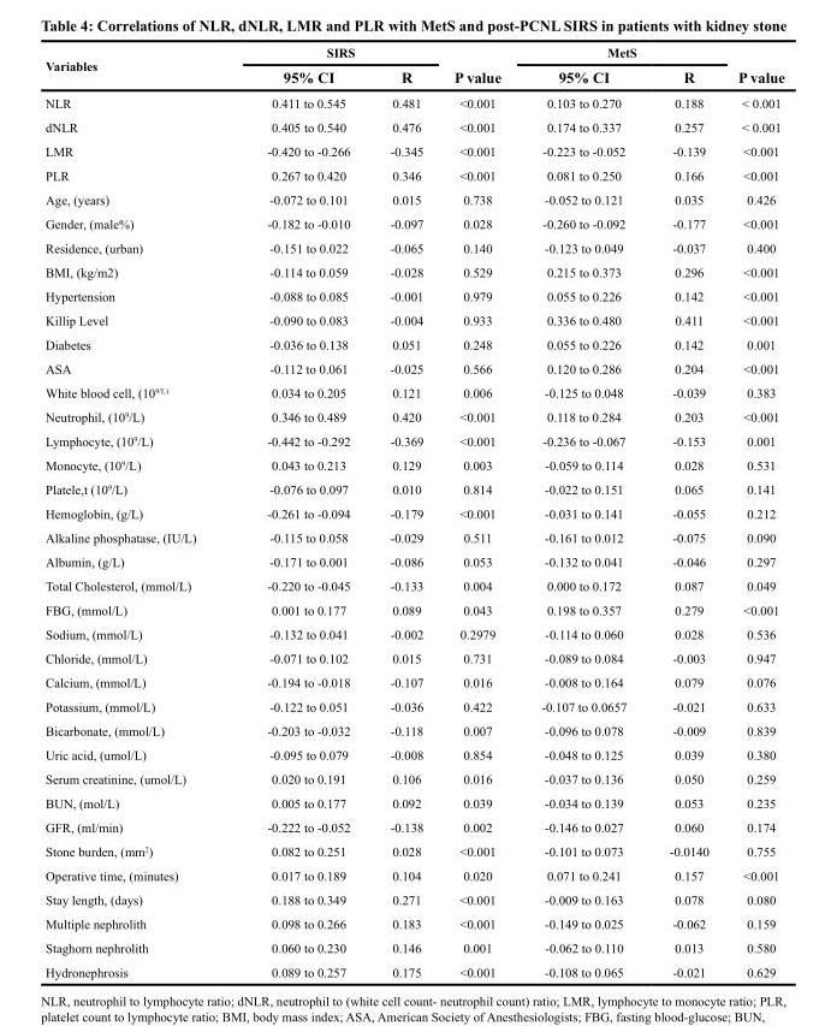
<table><thead><tr><td rowspan="2">Variables</td><td colspan="2">SIRS</td><td rowspan="2">P value</td><td colspan="2">MetS</td><td rowspan="2">P value</td></tr><tr><td>95% CI</td><td>R</td><td>95% CI</td><td>R</td></tr></thead><tbody><tr><td>NLR</td><td>0.411 to 0.545</td><td>0.481</td><td>&lt;0.001</td><td>0.103 to 0.270</td><td>0.188</td><td>&lt; 0.001</td></tr><tr><td>dNLR</td><td>0.405 to 0.540</td><td>0.476</td><td>&lt;0.001</td><td>0.174 to 0.337</td><td>0.257</td><td>&lt; 0.001</td></tr><tr><td>LMR</td><td>-0.420 to -0.266</td><td>-0.345</td><td>&lt;0.001</td><td>-0.223 to -0.052</td><td>-0.139</td><td>&lt;0.001</td></tr><tr><td>PLR</td><td>0.267 to 0.420</td><td>0.346</td><td>&lt;0.001</td><td>0.081 to 0.250</td><td>0.166</td><td>&lt;0.001</td></tr><tr><td>Age, (years)</td><td>-0.072 to 0.101</td><td>0.015</td><td>0.738</td><td>-0.052 to 0.121</td><td>0.035</td><td>0.426</td></tr><tr><td>Gender, (male%)</td><td>-0.182 to -0.010</td><td>-0.097</td><td>0.028</td><td>-0.260 to -0.092</td><td>-0.177</td><td>&lt;0.001</td></tr><tr><td>Residence, (urban)</td><td>-0.151 to 0.022</td><td>-0.065</td><td>0.140</td><td>-0.123 to 0.049</td><td>-0.037</td><td>0.400</td></tr><tr><td>BMI, (kg/m2)</td><td>-0.114 to 0.059</td><td>-0.028</td><td>0.529</td><td>0.215 to 0.373</td><td>0.296</td><td>&lt;0.001</td></tr><tr><td>Hypertension</td><td>-0.088 to 0.085</td><td>-0.001</td><td>0.979</td><td>0.055 to 0.226</td><td>0.142</td><td>&lt;0.001</td></tr><tr><td>Killip Level</td><td>-0.090 to 0.083</td><td>-0.004</td><td>0.933</td><td>0.336 to 0.480</td><td>0.411</td><td>&lt;0.001</td></tr><tr><td>Diabetes</td><td>-0.036 to 0.138</td><td>0.051</td><td>0.248</td><td>0.055 to 0.226</td><td>0.142</td><td>0.001</td></tr><tr><td>ASA</td><td>-0.112 to 0.061</td><td>-0.025</td><td>0.566</td><td>0.120 to 0.286</td><td>0.204</td><td>&lt;0.001</td></tr><tr><td>White blood cell, (10<sup>9/L)</sup></td><td>0.034 to 0.205</td><td>0.121</td><td>0.006</td><td>-0.125 to 0.048</td><td>-0.039</td><td>0.383</td></tr><tr><td>Neutrophil, (10<sup>9</sup>/L)</td><td>0.346 to 0.489</td><td>0.420</td><td>&lt;0.001</td><td>0.118 to 0.284</td><td>0.203</td><td>&lt;0.001</td></tr><tr><td>Lymphocyte, (10<sup>9</sup>/L)</td><td>-0.442 to -0.292</td><td>-0.369</td><td>&lt;0.001</td><td>-0.236 to -0.067</td><td>-0.153</td><td>0.001</td></tr><tr><td>Monocyte, (10<sup>9</sup>/L)</td><td>0.043 to 0.213</td><td>0.129</td><td>0.003</td><td>-0.059 to 0.114</td><td>0.028</td><td>0.531</td></tr><tr><td>Platele,t (10<sup>9</sup>/L)</td><td>-0.076 to 0.097</td><td>0.010</td><td>0.814</td><td>-0.022 to 0.151</td><td>0.065</td><td>0.141</td></tr><tr><td>Hemoglobin, (g/L)</td><td>-0.261 to -0.094</td><td>-0.179</td><td>&lt;0.001</td><td>-0.031 to 0.141</td><td>-0.055</td><td>0.212</td></tr><tr><td>Alkaline phosphatase, (IU/L)</td><td>-0.115 to 0.058</td><td>-0.029</td><td>0.511</td><td>-0.161 to 0.012</td><td>-0.075</td><td>0.090</td></tr><tr><td>Albumin, (g/L)</td><td>-0.171 to 0.001</td><td>-0.086</td><td>0.053</td><td>-0.132 to 0.041</td><td>-0.046</td><td>0.297</td></tr><tr><td>Total Cholesterol, (mmol/L)</td><td>-0.220 to -0.045</td><td>-0.133</td><td>0.004</td><td>0.000 to 0.172</td><td>0.087</td><td>0.049</td></tr><tr><td>FBG, (mmol/L)</td><td>0.001 to 0.177</td><td>0.089</td><td>0.043</td><td>0.198 to 0.357</td><td>0.279</td><td>&lt;0.001</td></tr><tr><td>Sodium, (mmol/L)</td><td>-0.132 to 0.041</td><td>-0.002</td><td>0.2979</td><td>-0.114 to 0.060</td><td>0.028</td><td>0.536</td></tr><tr><td>Chloride, (mmol/L)</td><td>-0.071 to 0.102</td><td>0.015</td><td>0.731</td><td>-0.089 to 0.084</td><td>-0.003</td><td>0.947</td></tr><tr><td>Calcium, (mmol/L)</td><td>-0.194 to -0.018</td><td>-0.107</td><td>0.016</td><td>-0.008 to 0.164</td><td>0.079</td><td>0.076</td></tr><tr><td>Potassium, (mmol/L)</td><td>-0.122 to 0.051</td><td>-0.036</td><td>0.422</td><td>-0.107 to 0.0657</td><td>-0.021</td><td>0.633</td></tr><tr><td>Bicarbonate, (mmol/L)</td><td>-0.203 to -0.032</td><td>-0.118</td><td>0.007</td><td>-0.096 to 0.078</td><td>-0.009</td><td>0.839</td></tr><tr><td>Uric acid, (umol/L)</td><td>-0.095 to 0.079</td><td>-0.008</td><td>0.854</td><td>-0.048 to 0.125</td><td>0.039</td><td>0.380</td></tr><tr><td>Serum creatinine, (umol/L)</td><td>0.020 to 0.191</td><td>0.106</td><td>0.016</td><td>-0.037 to 0.136</td><td>0.050</td><td>0.259</td></tr><tr><td>BUN, (mol/L)</td><td>0.005 to 0.177</td><td>0.092</td><td>0.039</td><td>-0.034 to 0.139</td><td>0.053</td><td>0.235</td></tr><tr><td>GFR, (ml/min)</td><td>-0.222 to -0.052</td><td>-0.138</td><td>0.002</td><td>-0.146 to 0.027</td><td>0.060</td><td>0.174</td></tr><tr><td>Stone burden, (mm<sup>2</sup>)</td><td>0.082 to 0.251</td><td>0.028</td><td>&lt;0.001</td><td>-0.101 to 0.073</td><td>-0.0140</td><td>0.755</td></tr><tr><td>Operative time, (minutes)</td><td>0.017 to 0.189</td><td>0.104</td><td>0.020</td><td>0.071 to 0.241</td><td>0.157</td><td>&lt;0.001</td></tr><tr><td>Stay length, (days)</td><td>0.188 to 0.349</td><td>0.271</td><td>&lt;0.001</td><td>-0.009 to 0.163</td><td>0.078</td><td>0.080</td></tr><tr><td>Multiple nephrolith</td><td>0.098 to 0.266</td><td>0.183</td><td>&lt;0.001</td><td>-0.149 to 0.025</td><td>-0.062</td><td>0.159</td></tr><tr><td>Staghorn nephrolith</td><td>0.060 to 0.230</td><td>0.146</td><td>0.001</td><td>-0.062 to 0.110</td><td>0.013</td><td>0.580</td></tr><tr><td>Hydronephrosis</td><td>0.089 to 0.257</td><td>0.175</td><td>&lt;0.001</td><td>-0.108 to 0.065</td><td>-0.021</td><td>0.629</td></tr></tbody></table>